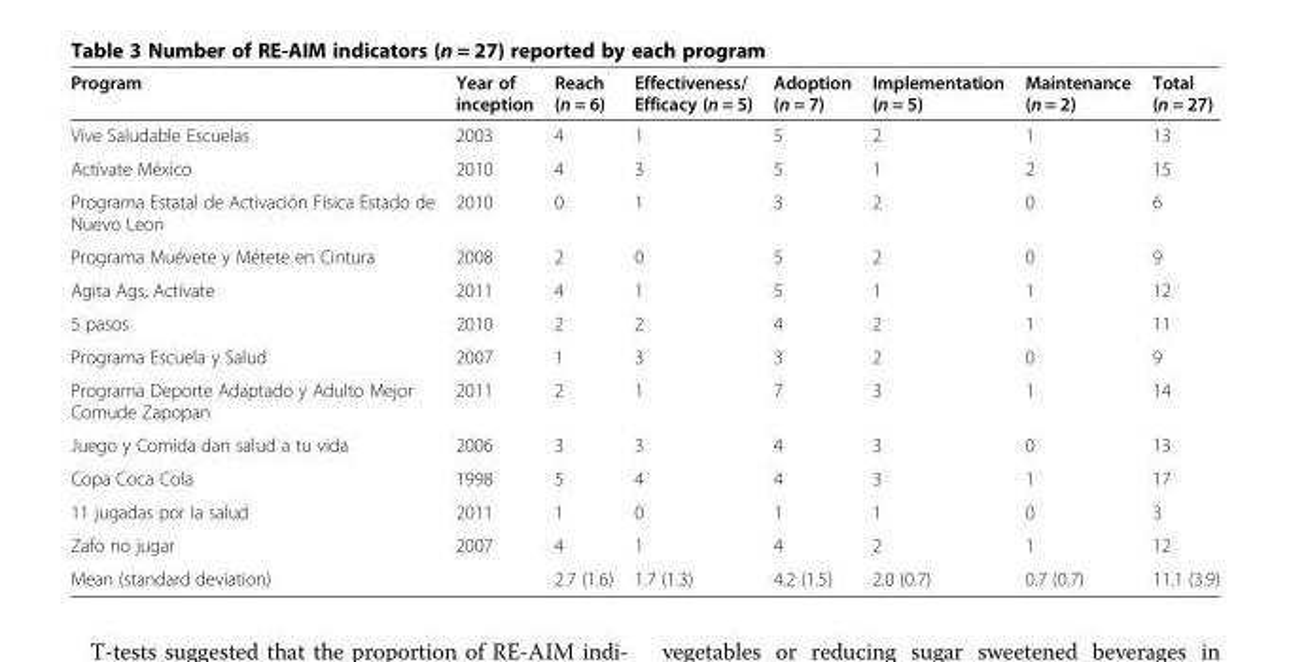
<table><thead><tr><td>Program</td><td>Year of inception</td><td>Reach (n = 6)</td><td>Effectiveness/ Efficacy (n = 5)</td><td>Adoption (n = 7)</td><td>Implementation (n = 5)</td><td>Maintenance (n = 2)</td><td>Total (n = 27)</td></tr></thead><tbody><tr><td>Vive Saludable Escuelas</td><td>2003</td><td>4</td><td>1</td><td>5</td><td>2</td><td>1</td><td>13</td></tr><tr><td>Actívate México</td><td>2010</td><td>4</td><td>3</td><td>5</td><td>1</td><td>2</td><td>15</td></tr><tr><td>Programa Estatal de Activación Física Estado de Nuevo Leon</td><td>2010</td><td>0</td><td>1</td><td>3</td><td>2</td><td>0</td><td>6</td></tr><tr><td>Programa Muévete y Métete en Cintura</td><td>2008</td><td>2</td><td>0</td><td>5</td><td>2</td><td>0</td><td>9</td></tr><tr><td>Agita Ags, Actívate</td><td>2011</td><td>4</td><td>1</td><td>5</td><td>1</td><td>1</td><td>12</td></tr><tr><td>5 pasos</td><td>2010</td><td>2</td><td>2</td><td>4</td><td>2</td><td>1</td><td>11</td></tr><tr><td>Programa Escuela y Salud</td><td>2007</td><td>1</td><td>3</td><td>3</td><td>2</td><td>0</td><td>9</td></tr><tr><td>Programa Deporte Adaptado y Adulto Mejor Comude Zapopan</td><td>2011</td><td>2</td><td>1</td><td>7</td><td>3</td><td>1</td><td>14</td></tr><tr><td>Juego y Comida dan salud a tu vida</td><td>2006</td><td>3</td><td>3</td><td>4</td><td>3</td><td>0</td><td>13</td></tr><tr><td>Copa Coca Cola</td><td>1998</td><td>5</td><td>4</td><td>4</td><td>3</td><td>1</td><td>17</td></tr><tr><td>11 jugadas por la salud</td><td>2011</td><td>1</td><td>0</td><td>1</td><td>1</td><td>0</td><td>3</td></tr><tr><td>Zafo no jugar</td><td>2007</td><td>4</td><td>1</td><td>4</td><td>2</td><td>1</td><td>12</td></tr><tr><td>Mean (standard deviation)</td><td></td><td>2.7 (1.6)</td><td>1.7 (1.3)</td><td>4.2 (1.5)</td><td>2.0 (0.7)</td><td>0.7 (0.7)</td><td>11.1 (3.9)</td></tr></tbody></table>